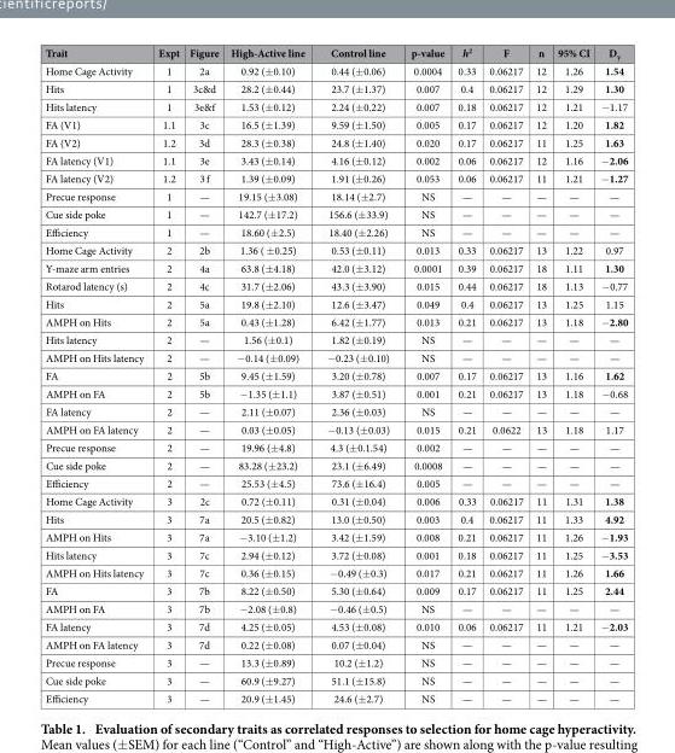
<table><thead><tr><td>Trait</td><td>Expt</td><td>Figure</td><td>High-Active line</td><td>Control line</td><td>p-value</td><td>h<sup>2</sup></td><td>F</td><td>n</td><td>95% CI</td><td>D<sub>y</sub></td></tr></thead><tbody><tr><td>Home Cage Activity</td><td>1</td><td>2a</td><td>0.92 (± 0.10)</td><td>0.44 (± 0.06)</td><td>0.0004</td><td>0.33</td><td>0.06217</td><td>12</td><td>1.26</td><td>1.54</td></tr><tr><td>Hits</td><td>1</td><td>3c&amp;d</td><td>28.2 (± 0.44)</td><td>23.7 (± 1.37)</td><td>0.007</td><td>0.4</td><td>0.06217</td><td>12</td><td>1.29</td><td>1.30</td></tr><tr><td>Hits latency</td><td>1</td><td>3e&amp;f</td><td>1.53 (± 0.12)</td><td>2.24 (± 0.22)</td><td>0.007</td><td>0.18</td><td>0.06217</td><td>12</td><td>1.21</td><td>− 1.17</td></tr><tr><td>FA (V1)</td><td>1.1</td><td>3c</td><td>16.5 (± 1.39)</td><td>9.59 (± 1.50)</td><td>0.005</td><td>0.17</td><td>0.06217</td><td>12</td><td>1.20</td><td>1.82</td></tr><tr><td>FA (V2)</td><td>1.2</td><td>3d</td><td>28.3 (± 0.38)</td><td>24.8 (± 1.40)</td><td>0.020</td><td>0.17</td><td>0.06217</td><td>11</td><td>1.25</td><td>1.63</td></tr><tr><td>FA latency (V1)</td><td>1.1</td><td>3e</td><td>3.43 (± 0.14)</td><td>4.16 (± 0.12)</td><td>0.002</td><td>0.06</td><td>0.06217</td><td>12</td><td>1.16</td><td>− 2.06</td></tr><tr><td>FA latency (V2)</td><td>1.2</td><td>3 f</td><td>1.39 (± 0.09)</td><td>1.91 (± 0.26)</td><td>0.053</td><td>0.06</td><td>0.06217</td><td>11</td><td>1.21</td><td>− 1.27</td></tr><tr><td>Precue response</td><td>1</td><td>—</td><td>19.15 (± 3.08)</td><td>18.14 (± 2.7)</td><td>NS</td><td>—</td><td>—</td><td>—</td><td>—</td><td>—</td></tr><tr><td>Cue side poke</td><td>1</td><td>—</td><td>142.7 (± 17.2)</td><td>156.6 (± 33.9)</td><td>NS</td><td>—</td><td>—</td><td>—</td><td>—</td><td>—</td></tr><tr><td>Efficiency</td><td>1</td><td>—</td><td>18.60 (± 2.5)</td><td>18.40 (± 2.26)</td><td>NS</td><td>—</td><td>—</td><td>—</td><td>—</td><td>—</td></tr><tr><td>Home Cage Activity</td><td>2</td><td>2b</td><td>1.36 ( ± 0.25)</td><td>0.53 (± 0.11)</td><td>0.013</td><td>0.33</td><td>0.06217</td><td>13</td><td>1.22</td><td>0.97</td></tr><tr><td>Y-maze arm entries</td><td>2</td><td>4a</td><td>63.8 (± 4.18)</td><td>42.0 (± 3.12)</td><td>0.0001</td><td>0.39</td><td>0.06217</td><td>18</td><td>1.11</td><td>1.30</td></tr><tr><td>Rotarod latency (s)</td><td>2</td><td>4c</td><td>31.7 (± 2.06)</td><td>43.3 (± 3.90)</td><td>0.015</td><td>0.44</td><td>0.06217</td><td>18</td><td>1.13</td><td>− 0.77</td></tr><tr><td>Hits</td><td>2</td><td>5a</td><td>19.8 (± 2.10)</td><td>12.6 (± 3.47)</td><td>0.049</td><td>0.4</td><td>0.06217</td><td>13</td><td>1.25</td><td>1.15</td></tr><tr><td>AMPH on Hits</td><td>2</td><td>5a</td><td>0.43 (± 1.28)</td><td>6.42 (± 1.77)</td><td>0.013</td><td>0.21</td><td>0.06217</td><td>13</td><td>1.18</td><td>− 2.80</td></tr><tr><td>Hits latency</td><td>2</td><td>—</td><td>1.56 (± 0.1)</td><td>1.82 (± 0.19)</td><td>NS</td><td>—</td><td>—</td><td>—</td><td>—</td><td>—</td></tr><tr><td>AMPH on Hits latency</td><td>2</td><td>—</td><td>− 0.14 (± 0.09)</td><td>− 0.23 (± 0.10)</td><td>NS</td><td>—</td><td>—</td><td>—</td><td>—</td><td>—</td></tr><tr><td>FA</td><td>2</td><td>5b</td><td>9.45 (± 1.59)</td><td>3.20 (± 0.78)</td><td>0.007</td><td>0.17</td><td>0.06217</td><td>13</td><td>1.16</td><td>1.62</td></tr><tr><td>AMPH on FA</td><td>2</td><td>5b</td><td>− 1.35 (± 1.1)</td><td>3.87 (± 0.51)</td><td>0.001</td><td>0.21</td><td>0.06217</td><td>13</td><td>1.18</td><td>− 0.68</td></tr><tr><td>FA latency</td><td>2</td><td>—</td><td>2.11 (± 0.07)</td><td>2.36 (± 0.03)</td><td>NS</td><td>—</td><td>—</td><td>—</td><td>—</td><td>—</td></tr><tr><td>AMPH on FA latency</td><td>2</td><td>—</td><td>0.03 (± 0.05)</td><td>− 0.13 (± 0.03)</td><td>0.015</td><td>0.21</td><td>0.0622</td><td>13</td><td>1.18</td><td>1.17</td></tr><tr><td>Precue response</td><td>2</td><td>—</td><td>19.96 (± 4.8)</td><td>4.3 (± 0.1.54)</td><td>0.002</td><td>—</td><td>—</td><td>—</td><td>—</td><td>—</td></tr><tr><td>Cue side poke</td><td>2</td><td>—</td><td>83.28 (± 23.2)</td><td>23.1 (± 6.49)</td><td>0.0008</td><td>—</td><td>—</td><td>—</td><td>—</td><td>—</td></tr><tr><td>Efficiency</td><td>2</td><td>—</td><td>25.53 (± 4.5)</td><td>73.6 (± 16.4)</td><td>0.005</td><td>—</td><td>—</td><td>—</td><td>—</td><td>—</td></tr><tr><td>Home Cage Activity</td><td>3</td><td>2c</td><td>0.72 (± 0.11)</td><td>0.31 (± 0.04)</td><td>0.006</td><td>0.33</td><td>0.06217</td><td>11</td><td>1.31</td><td>1.38</td></tr><tr><td>Hits</td><td>3</td><td>7a</td><td>20.5 (± 0.82)</td><td>13.0 (± 0.50)</td><td>0.003</td><td>0.4</td><td>0.06217</td><td>11</td><td>1.33</td><td>4.92</td></tr><tr><td>AMPH on Hits</td><td>3</td><td>7a</td><td>− 3.10 (± 1.2)</td><td>3.42 (± 1.59)</td><td>0.008</td><td>0.21</td><td>0.06217</td><td>11</td><td>1.26</td><td>− 1.93</td></tr><tr><td>Hits latency</td><td>3</td><td>7c</td><td>2.94 (± 0.12)</td><td>3.72 (± 0.08)</td><td>0.001</td><td>0.18</td><td>0.06217</td><td>11</td><td>1.25</td><td>− 3.53</td></tr><tr><td>AMPH on Hits latency</td><td>3</td><td>7c</td><td>0.36 (± 0.15)</td><td>− 0.49 (± 0.3)</td><td>0.017</td><td>0.21</td><td>0.06217</td><td>11</td><td>1.26</td><td>1.66</td></tr><tr><td>FA</td><td>3</td><td>7b</td><td>8.22 (± 0.50)</td><td>5.30 (± 0.64)</td><td>0.009</td><td>0.17</td><td>0.06217</td><td>11</td><td>1.25</td><td>2.44</td></tr><tr><td>AMPH on FA</td><td>3</td><td>7b</td><td>− 2.08 (± 0.8)</td><td>− 0.46 (± 0.5)</td><td>NS</td><td>—</td><td>—</td><td>—</td><td>—</td><td>—</td></tr><tr><td>FA latency</td><td>3</td><td>7d</td><td>4.25 (± 0.05)</td><td>4.53 (± 0.08)</td><td>0.010</td><td>0.06</td><td>0.06217</td><td>11</td><td>1.21</td><td>− 2.03</td></tr><tr><td>AMPH on FA latency</td><td>3</td><td>7d</td><td>0.22 (± 0.08)</td><td>0.07 (± 0.04)</td><td>NS</td><td>—</td><td>—</td><td>—</td><td>—</td><td>—</td></tr><tr><td>Precue response</td><td>3</td><td>—</td><td>13.3 (± 0.89)</td><td>10.2 (± 1.2)</td><td>NS</td><td>—</td><td>—</td><td>—</td><td>—</td><td>—</td></tr><tr><td>Cue side poke</td><td>3</td><td>—</td><td>60.9 (± 9.27)</td><td>51.1 (± 15.8)</td><td>NS</td><td>—</td><td>—</td><td>—</td><td>—</td><td>—</td></tr><tr><td>Efficiency</td><td>3</td><td>—</td><td>20.9 (± 1.45)</td><td>24.6 (± 2.7)</td><td>NS</td><td>—</td><td>—</td><td>—</td><td>—</td><td>—</td></tr></tbody></table>